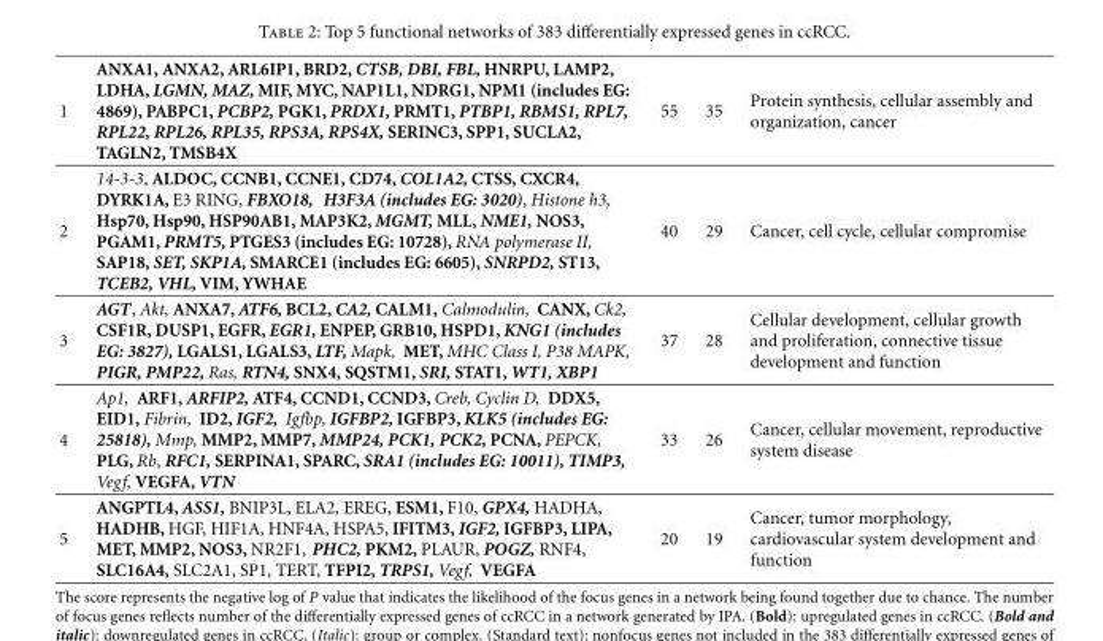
<table><thead><tr><td>1</td><td>ANXA1, ANXA2, ARL6IP1, BRD2, CTSB, DBI, FBL, HNRPU, LAMP2, LDHA, LGMN, MAZ, MIF, MYC, NAP1L1, NDRG1, NPM1 (includes EG: 4869), PABPC1, PCBP2, PGK1, PRDX1, PRMT1, PTBP1, RBMS1, RPL7, RPL22, RPL26, RPL35, RPS3A, RPS4X, SERINC3, SPP1, SUCLA2, TAGLN2, TMSB4X</td><td>55</td><td>35</td><td>Protein synthesis, cellular assembly and organization, cancer</td></tr></thead><tbody><tr><td>2</td><td>14-3-3, ALDOC, CCNB1, CCNE1, CD74, COL1A2, CTSS, CXCR4, DYRK1A, E3 RING, FBXO18, H3F3A (includes EG: 3020), Histone h3, Hsp70, Hsp90, HSP90AB1, MAP3K2, MGMT, MLL, NME1, NOS3, PGAM1, PRMT5, PTGES3 (includes EG: 10728), RNA polymerase II, SAP18, SET, SKP1A, SMARCE1 (includes EG: 6605), SNRPD2, ST13, TCEB2, VHL, VIM, YWHAE</td><td>40</td><td>29</td><td>Cancer, cell cycle, cellular compromise</td></tr><tr><td>3</td><td>AGT, Akt, ANXA7, ATF6, BCL2, CA2, CALM1, Calmodulin, CANX, Ck2, CSF1R, DUSP1, EGFR, EGR1, ENPEP, GRB10, HSPD1, KNG1 (includes EG: 3827), LGALS1, LGALS3, LTF, Mapk, MET, MHC Class I, P38 MAPK, PIGR, PMP22, Ras, RTN4, SNX4, SQSTM1, SRI, STAT1, WT1, XBP1</td><td>37</td><td>28</td><td>Cellular development, cellular growth and proliferation, connective tissue development and function</td></tr><tr><td>4</td><td>Ap1, ARF1, ARFIP2, ATF4, CCND1, CCND3, Creb, Cyclin D, DDX5, EID1, Fibrin, ID2, IGF2, Igfbp, IGFBP2, IGFBP3, KLK5 (includes EG: 25818), Mmp, MMP2, MMP7, MMP24, PCK1, PCK2, PCNA, PEPCK, PLG, Rb, RFC1, SERPINA1, SPARC, SRA1 (includes EG: 10011), TIMP3, Vegf, VEGFA, VTN</td><td>33</td><td>26</td><td>Cancer, cellular movement, reproductive system disease</td></tr><tr><td>5</td><td>ANGPTL4, ASS1, BNIP3L, ELA2, EREG, ESM1, F10, GPX4, HADHA, HADHB, HGF, HIF1A, HNF4A, HSPA5, IFITM3, IGF2, IGFBP3, LIPA, MET, MMP2, NOS3, NR2F1, PHC2, PKM2, PLAUR, POGZ, RNF4, SLC16A4, SLC2A1, SP1, TERT, TFPI2, TRPS1, Vegf, VEGFA</td><td>20</td><td>19</td><td>Cancer, tumor morphology, cardiovascular system development and function</td></tr></tbody></table>